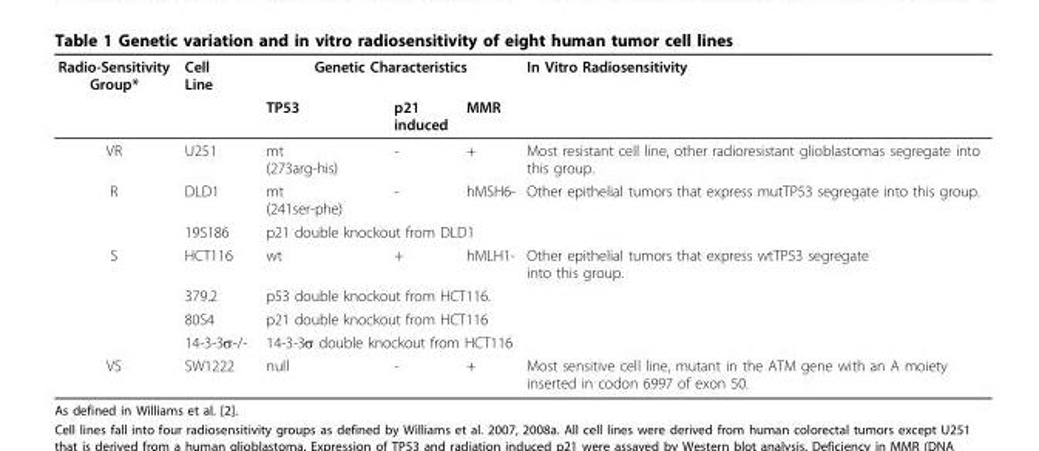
<table><thead><tr><td rowspan="2">Radio-Sensitivity Group*</td><td rowspan="2">Cell Line</td><td colspan="3">Genetic Characteristics</td><td rowspan="2">In Vitro Radiosensitivity</td></tr><tr><td>TP53</td><td>p21 induced</td><td>MMR</td></tr></thead><tbody><tr><td>VR</td><td>U251</td><td>mt (273arg-his)</td><td>-</td><td>+</td><td>Most resistant cell line, other radioresistant glioblastomas segregate into this group.</td></tr><tr><td rowspan="2">R</td><td>DLD1</td><td>mt (241ser-phe)</td><td>-</td><td>hMSH6-</td><td>Other epithelial tumors that express mutTP53 segregate into this group.</td></tr><tr><td>19S186</td><td colspan="3">p21 double knockout from DLD1</td><td></td></tr><tr><td rowspan="4">S</td><td>HCT116</td><td>wt</td><td>+</td><td>hMLH1-</td><td>Other epithelial tumors that express wtTP53 segregate into this group.</td></tr><tr><td>379.2</td><td colspan="3">p53 double knockout from HCT116.</td><td></td></tr><tr><td>80S4</td><td colspan="3">p21 double knockout from HCT116</td><td></td></tr><tr><td>14-3-3σ-/-</td><td colspan="3">14-3-3σ double knockout from HCT116</td><td></td></tr><tr><td>VS</td><td>SW1222</td><td>null</td><td>-</td><td>+</td><td>Most sensitive cell line, mutant in the ATM gene with an A moiety inserted in codon 6997 of exon 50.</td></tr></tbody></table>